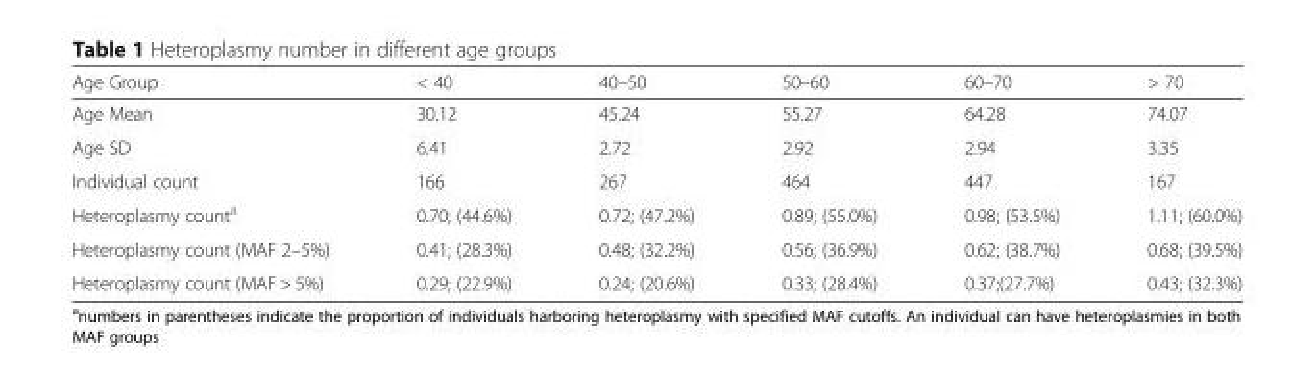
<table><thead><tr><td>Age Group</td><td>&lt; 40</td><td>40–50</td><td>50–60</td><td>60–70</td><td>&gt; 70</td></tr></thead><tbody><tr><td>Age Mean</td><td>30.12</td><td>45.24</td><td>55.27</td><td>64.28</td><td>74.07</td></tr><tr><td>Age SD</td><td>6.41</td><td>2.72</td><td>2.92</td><td>2.94</td><td>3.35</td></tr><tr><td>Individual count</td><td>166</td><td>267</td><td>464</td><td>447</td><td>167</td></tr><tr><td>Heteroplasmy count<sup>a</sup></td><td>0.70; (44.6%)</td><td>0.72; (47.2%)</td><td>0.89; (55.0%)</td><td>0.98; (53.5%)</td><td>1.11; (60.0%)</td></tr><tr><td>Heteroplasmy count (MAF 2–5%)</td><td>0.41; (28.3%)</td><td>0.48; (32.2%)</td><td>0.56; (36.9%)</td><td>0.62; (38.7%)</td><td>0.68; (39.5%)</td></tr><tr><td>Heteroplasmy count (MAF &gt; 5%)</td><td>0.29; (22.9%)</td><td>0.24; (20.6%)</td><td>0.33; (28.4%)</td><td>0.37;(27.7%)</td><td>0.43; (32.3%)</td></tr></tbody></table>